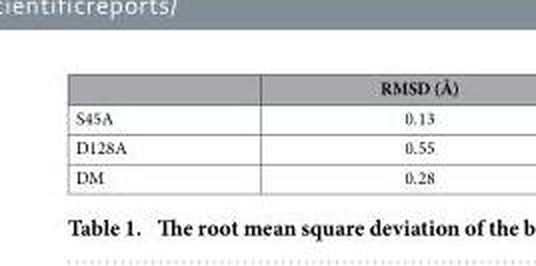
<table><thead><tr><td></td><td>RMSD (Å)</td></tr></thead><tbody><tr><td>S45A</td><td>0.13</td></tr><tr><td>D128A</td><td>0.55</td></tr><tr><td>DM</td><td>0.28</td></tr></tbody></table>